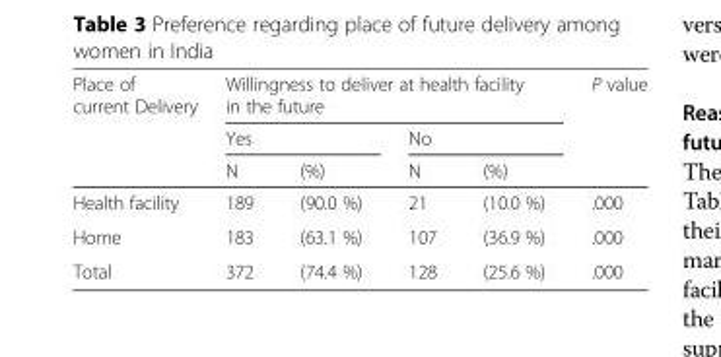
<table><thead><tr><td rowspan="3">Place of current Delivery</td><td colspan="4">Willingness to deliver at health facility in the future</td><td rowspan="3">P value</td></tr><tr><td colspan="2">Yes</td><td colspan="2">No</td></tr><tr><td>N</td><td>(%)</td><td>N</td><td>(%)</td></tr></thead><tbody><tr><td>Health facility</td><td>189</td><td>(90.0 %)</td><td>21</td><td>(10.0 %)</td><td>.000</td></tr><tr><td>Home</td><td>183</td><td>(63.1 %)</td><td>107</td><td>(36.9 %)</td><td>.000</td></tr><tr><td>Total</td><td>372</td><td>(74.4 %)</td><td>128</td><td>(25.6 %)</td><td>.000</td></tr></tbody></table>